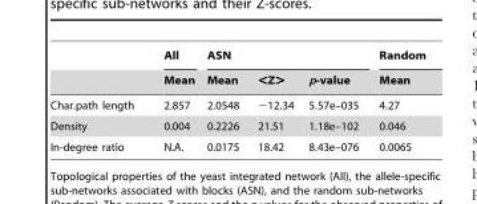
<table><thead><tr><td rowspan="2"></td><td rowspan="2">All Mean</td><td colspan="3">ASN</td><td rowspan="2">Random Mean</td></tr><tr><td>Mean</td><td>&lt;Z&gt;</td><td>p-value</td></tr></thead><tbody><tr><td>Char.path length</td><td>2.857</td><td>2.0548</td><td>−12.34</td><td>5.57e–035</td><td>4.27</td></tr><tr><td>Density</td><td>0.004</td><td>0.2226</td><td>21.51</td><td>1.18e–102</td><td>0.046</td></tr><tr><td>In-degree ratio</td><td>N.A.</td><td>0.0175</td><td>18.42</td><td>8.43e–076</td><td>0.0065</td></tr></tbody></table>